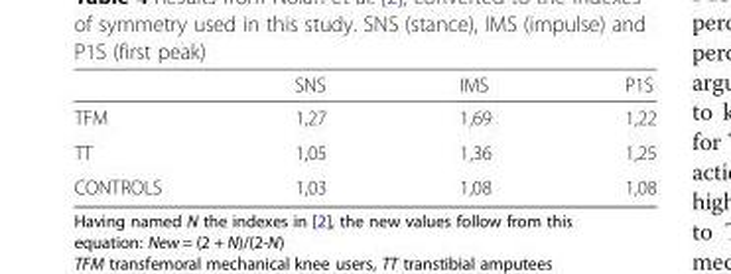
<table><thead><tr><td></td><td>SNS</td><td>IMS</td><td>P1S</td></tr></thead><tbody><tr><td>TFM</td><td>1,27</td><td>1,69</td><td>1,22</td></tr><tr><td>TT</td><td>1,05</td><td>1,36</td><td>1,25</td></tr><tr><td>CONTROLS</td><td>1,03</td><td>1,08</td><td>1,08</td></tr></tbody></table>